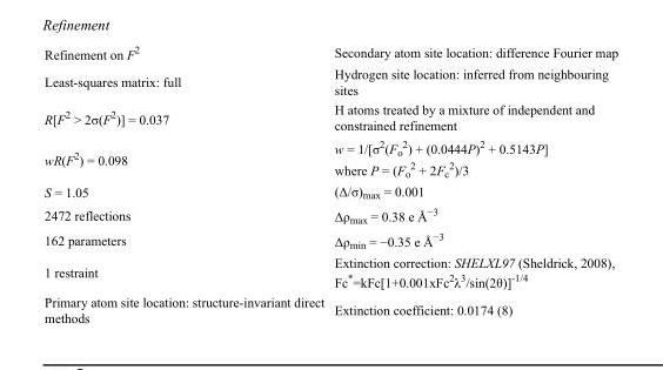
<table><tbody><tr><td>Refinement on F<sup>2</sup></td><td>Secondary atom site location: difference Fourier map</td></tr><tr><td>Least-squares matrix: full</td><td>Hydrogen site location: inferred from neighbouring sites</td></tr><tr><td>R[F<sup>2</sup> &gt; 2σ(F<sup>2</sup>)] = 0.037</td><td>H atoms treated by a mixture of independent and constrained refinement</td></tr><tr><td>wR(F<sup>2</sup>) = 0.098</td><td>w = 1/[σ<sup>2</sup>(F<sub>o</sub> <sup>2</sup>) + (0.0444P)<sup>2</sup> + 0.5143P] where P = (F<sub>o</sub> <sup>2</sup> + 2F<sub>c</sub> <sup>2</sup>)/3</td></tr><tr><td>S = 1.05</td><td>(Δ/σ)<sub>max</sub> = 0.001</td></tr><tr><td>2472 reflections</td><td>Δρ<sub>max</sub> = 0.38 e Å<sup>−3</sup></td></tr><tr><td>162 parameters</td><td>Δρ<sub>min</sub> = −0.35 e Å<sup>−3</sup></td></tr><tr><td>1 restraint</td><td>Extinction correction: SHELXL97 (Sheldrick, 2008), Fc*=kFc[1+0.001xFc<sup>2</sup>λ<sup>3</sup>/sin(2θ)]<sup>-1/4</sup></td></tr><tr><td>Primary atom site location: structure-invariant direct methods</td><td>Extinction coefficient: 0.0174 (8)</td></tr></tbody></table>